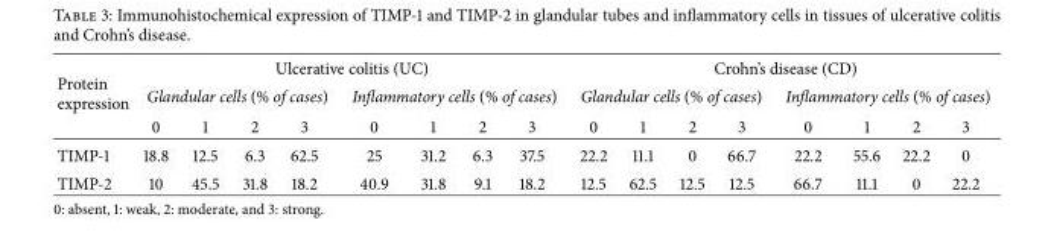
<table><thead><tr><td rowspan="3">Protein expression</td><td colspan="8">Ulcerative colitis (UC)</td><td colspan="8">Crohn’s disease (CD)</td></tr><tr><td colspan="4">Glandular cells (% of cases)</td><td colspan="4">Inflammatory cells (% of cases)</td><td colspan="4">Glandular cells (% of cases)</td><td colspan="4">Inflammatory cells (% of cases)</td></tr><tr><td>0</td><td>1</td><td>2</td><td>3</td><td>0</td><td>1</td><td>2</td><td>3</td><td>0</td><td>1</td><td>2</td><td>3</td><td>0</td><td>1</td><td>2</td><td>3</td></tr></thead><tbody><tr><td>TIMP-1</td><td>18.8</td><td>12.5</td><td>6.3</td><td>62.5</td><td>25</td><td>31.2</td><td>6.3</td><td>37.5</td><td>22.2</td><td>11.1</td><td>0</td><td>66.7</td><td>22.2</td><td>55.6</td><td>22.2</td><td>0</td></tr><tr><td>TIMP-2</td><td>10</td><td>45.5</td><td>31.8</td><td>18.2</td><td>40.9</td><td>31.8</td><td>9.1</td><td>18.2</td><td>12.5</td><td>62.5</td><td>12.5</td><td>12.5</td><td>66.7</td><td>11.1</td><td>0</td><td>22.2</td></tr></tbody></table>